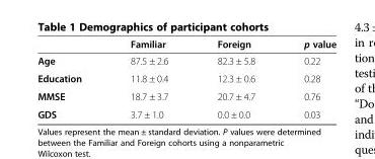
<table><thead><tr><td></td><td>Familiar</td><td>Foreign</td><td>p value</td></tr></thead><tbody><tr><td>Age</td><td>87.5 ± 2.6</td><td>82.3 ± 5.8</td><td>0.22</td></tr><tr><td>Education</td><td>11.8 ± 0.4</td><td>12.3 ± 0.6</td><td>0.28</td></tr><tr><td>MMSE</td><td>18.7 ± 3.7</td><td>20.7 ± 4.7</td><td>0.76</td></tr><tr><td>GDS</td><td>3.7 ± 1.0</td><td>0.0 ± 0.0</td><td>0.03</td></tr></tbody></table>